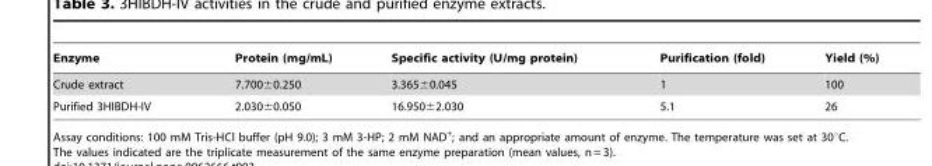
<table><thead><tr><td>Enzyme</td><td>Protein (mg/mL)</td><td>Specific activity (U/mg protein)</td><td>Purification (fold)</td><td>Yield (%)</td></tr></thead><tbody><tr><td>Crude extract</td><td>7.700±0.250</td><td>3.365±0.045</td><td>1</td><td>100</td></tr><tr><td>Purified 3HIBDH-IV</td><td>2.030±0.050</td><td>16.950±2.030</td><td>5.1</td><td>26</td></tr></tbody></table>